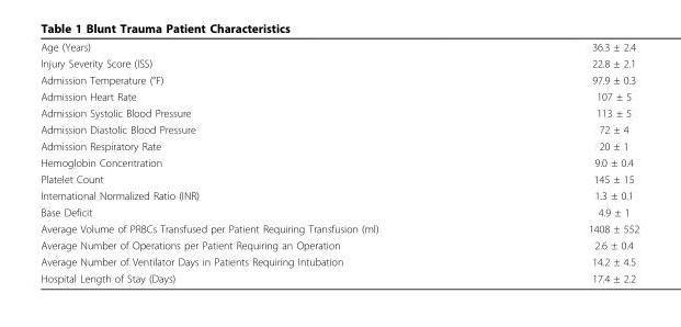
<table><tbody><tr><td>Age (Years)</td><td>36.3 ± 2.4</td></tr><tr><td>Injury Severity Score (ISS)</td><td>22.8 ± 2.1</td></tr><tr><td>Admission Temperature (°F)</td><td>97.9 ± 0.3</td></tr><tr><td>Admission Heart Rate</td><td>107 ± 5</td></tr><tr><td>Admission Systolic Blood Pressure</td><td>113 ± 5</td></tr><tr><td>Admission Diastolic Blood Pressure</td><td>72 ± 4</td></tr><tr><td>Admission Respiratory Rate</td><td>20 ± 1</td></tr><tr><td>Hemoglobin Concentration</td><td>9.0 ± 0.4</td></tr><tr><td>Platelet Count</td><td>145 ± 15</td></tr><tr><td>International Normalized Ratio (INR)</td><td>1.3 ± 0.1</td></tr><tr><td>Base Deficit</td><td>4.9 ± 1</td></tr><tr><td>Average Volume of PRBCs Transfused per Patient Requiring Transfusion (ml)</td><td>1408 ± 552</td></tr><tr><td>Average Number of Operations per Patient Requiring an Operation</td><td>2.6 ± 0.4</td></tr><tr><td>Average Number of Ventilator Days in Patients Requiring Intubation</td><td>14.2 ± 4.5</td></tr><tr><td>Hospital Length of Stay (Days)</td><td>17.4 ± 2.2</td></tr></tbody></table>